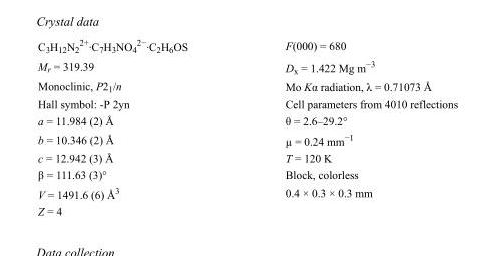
<table><tbody><tr><td>C<sub>3</sub>H<sub>12</sub>N<sub>2</sub> <sup>2+</sup>·C<sub>7</sub>H<sub>3</sub>NO<sub>4</sub> <sup>2−</sup>·C<sub>2</sub>H<sub>6</sub>OS</td><td>F(000) = 680</td></tr><tr><td>M<sub>r</sub> = 319.39</td><td>D<sub>x</sub> = 1.422 Mg m<sup>−3</sup></td></tr><tr><td>Monoclinic, P2<sub>1</sub>/n</td><td>Mo Kα radiation, λ = 0.71073 Å</td></tr><tr><td>Hall symbol: -P 2yn</td><td>Cell parameters from 4010 reflections</td></tr><tr><td>a = 11.984 (2) Å</td><td>θ = 2.6–29.2°</td></tr><tr><td>b = 10.346 (2) Å</td><td>µ = 0.24 mm<sup>−1</sup></td></tr><tr><td>c = 12.942 (3) Å</td><td>T = 120 K</td></tr><tr><td>β = 111.63 (3)°</td><td>Block, colorless</td></tr><tr><td>V = 1491.6 (6) Å<sup>3</sup></td><td>0.4 × 0.3 × 0.3 mm</td></tr><tr><td>Z = 4</td><td></td></tr></tbody></table>